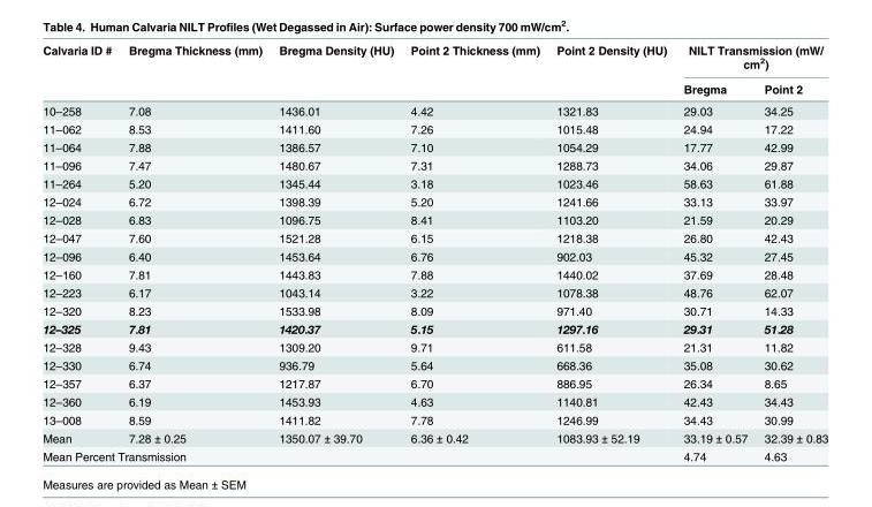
<table><thead><tr><td rowspan="2">Calvaria ID #</td><td rowspan="2">Bregma Thickness (mm)</td><td rowspan="2">Bregma Density (HU)</td><td rowspan="2">Point 2 Thickness (mm)</td><td rowspan="2">Point 2 Density (HU)</td><td colspan="2">NILT Transmission (mW/ cm<sup>2</sup>)</td></tr><tr><td>Bregma</td><td>Point 2</td></tr></thead><tbody><tr><td>10–258</td><td>7.08</td><td>1436.01</td><td>4.42</td><td>1321.83</td><td>29.03</td><td>34.25</td></tr><tr><td>11–062</td><td>8.53</td><td>1411.60</td><td>7.26</td><td>1015.48</td><td>24.94</td><td>17.22</td></tr><tr><td>11–064</td><td>7.88</td><td>1386.57</td><td>7.10</td><td>1054.29</td><td>17.77</td><td>42.99</td></tr><tr><td>11–096</td><td>7.47</td><td>1480.67</td><td>7.31</td><td>1288.73</td><td>34.06</td><td>29.87</td></tr><tr><td>11–264</td><td>5.20</td><td>1345.44</td><td>3.18</td><td>1023.46</td><td>58.63</td><td>61.88</td></tr><tr><td>12–024</td><td>6.72</td><td>1398.39</td><td>5.20</td><td>1241.66</td><td>33.13</td><td>33.97</td></tr><tr><td>12–028</td><td>6.83</td><td>1096.75</td><td>8.41</td><td>1103.20</td><td>21.59</td><td>20.29</td></tr><tr><td>12–047</td><td>7.60</td><td>1521.28</td><td>6.15</td><td>1218.38</td><td>26.80</td><td>42.43</td></tr><tr><td>12–096</td><td>6.40</td><td>1453.64</td><td>6.76</td><td>902.03</td><td>45.32</td><td>27.45</td></tr><tr><td>12–160</td><td>7.81</td><td>1443.83</td><td>7.88</td><td>1440.02</td><td>37.69</td><td>28.48</td></tr><tr><td>12–223</td><td>6.17</td><td>1043.14</td><td>3.22</td><td>1078.38</td><td>48.76</td><td>62.07</td></tr><tr><td>12–320</td><td>8.23</td><td>1533.98</td><td>8.09</td><td>971.40</td><td>30.71</td><td>14.33</td></tr><tr><td>12–325</td><td>7.81</td><td>1420.37</td><td>5.15</td><td>1297.16</td><td>29.31</td><td>51.28</td></tr><tr><td>12–328</td><td>9.43</td><td>1309.20</td><td>9.71</td><td>611.58</td><td>21.31</td><td>11.82</td></tr><tr><td>12–330</td><td>6.74</td><td>936.79</td><td>5.64</td><td>668.36</td><td>35.08</td><td>30.62</td></tr><tr><td>12–357</td><td>6.37</td><td>1217.87</td><td>6.70</td><td>886.95</td><td>26.34</td><td>8.65</td></tr><tr><td>12–360</td><td>6.19</td><td>1453.93</td><td>4.63</td><td>1140.81</td><td>42.43</td><td>34.43</td></tr><tr><td>13–008</td><td>8.59</td><td>1411.82</td><td>7.78</td><td>1246.99</td><td>34.43</td><td>30.99</td></tr><tr><td>Mean</td><td>7.28 ± 0.25</td><td>1350.07 ± 39.70</td><td>6.36 ± 0.42</td><td>1083.93 ± 52.19</td><td>33.19 ± 0.57</td><td>32.39 ± 0.83</td></tr><tr><td colspan="5">Mean Percent Transmission</td><td>4.74</td><td>4.63</td></tr></tbody></table>